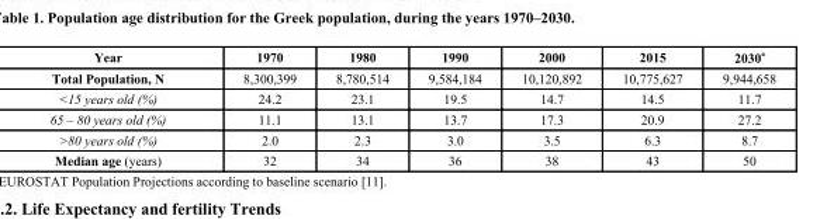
<table><thead><tr><td>Year</td><td>1970</td><td>1980</td><td>1990</td><td>2000</td><td>2015</td><td>2030 <sup>a</sup></td></tr></thead><tbody><tr><td>Total Population, N</td><td>8,300,399</td><td>8,780,514</td><td>9,584,184</td><td>10,120,892</td><td>10,775,627</td><td>9,944,658</td></tr><tr><td>&lt;15 years old (%)</td><td>24.2</td><td>23.1</td><td>19.5</td><td>14.7</td><td>14.5</td><td>11.7</td></tr><tr><td>65 – 80 years old (%)</td><td>11.1</td><td>13.1</td><td>13.7</td><td>17.3</td><td>20.9</td><td>27.2</td></tr><tr><td>&gt;80 years old (%)</td><td>2.0</td><td>2.3</td><td>3.0</td><td>3.5</td><td>6.3</td><td>8.7</td></tr><tr><td>Median age (years)</td><td>32</td><td>34</td><td>36</td><td>38</td><td>43</td><td>50</td></tr></tbody></table>